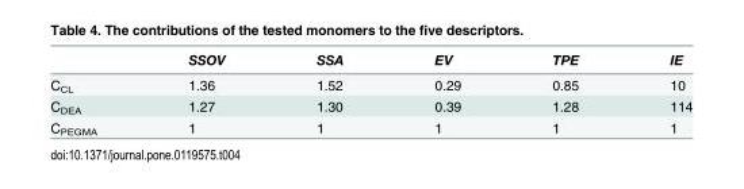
<table><thead><tr><td></td><td>SSOV</td><td>SSA</td><td>EV</td><td>TPE</td><td>IE</td></tr></thead><tbody><tr><td>C<sub>CL</sub></td><td>1.36</td><td>1.52</td><td>0.29</td><td>0.85</td><td>10</td></tr><tr><td>C<sub>DEA</sub></td><td>1.27</td><td>1.30</td><td>0.39</td><td>1.28</td><td>114</td></tr><tr><td>C<sub>PEGMA</sub></td><td>1</td><td>1</td><td>1</td><td>1</td><td>1</td></tr></tbody></table>